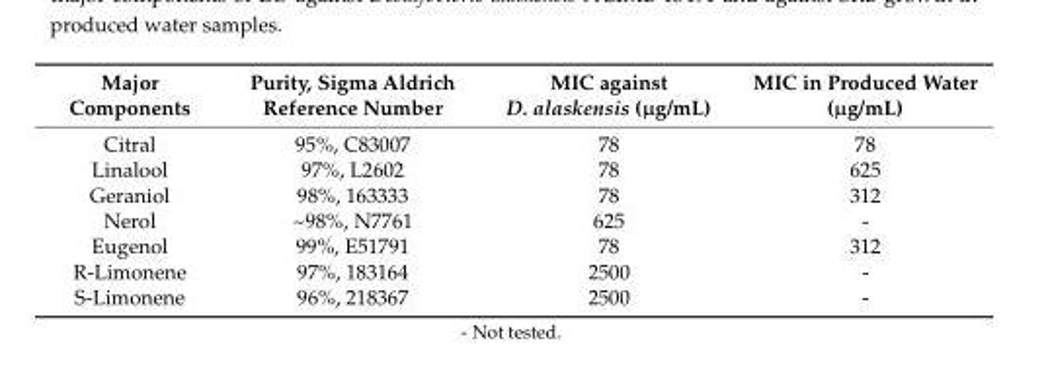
<table><thead><tr><td>Major Components</td><td>Purity, Sigma Aldrich Reference Number</td><td>MIC against D. alaskensis (µg/mL)</td><td>MIC in Produced Water (µg/mL)</td></tr></thead><tbody><tr><td>Citral</td><td>95%, C83007</td><td>78</td><td>78</td></tr><tr><td>Linalool</td><td>97%, L2602</td><td>78</td><td>625</td></tr><tr><td>Geraniol</td><td>98%, 163333</td><td>78</td><td>312</td></tr><tr><td>Nerol</td><td>~98%, N7761</td><td>625</td><td>-</td></tr><tr><td>Eugenol</td><td>99%, E51791</td><td>78</td><td>312</td></tr><tr><td>R-Limonene</td><td>97%, 183164</td><td>2500</td><td>-</td></tr><tr><td>S-Limonene</td><td>96%, 218367</td><td>2500</td><td>-</td></tr></tbody></table>